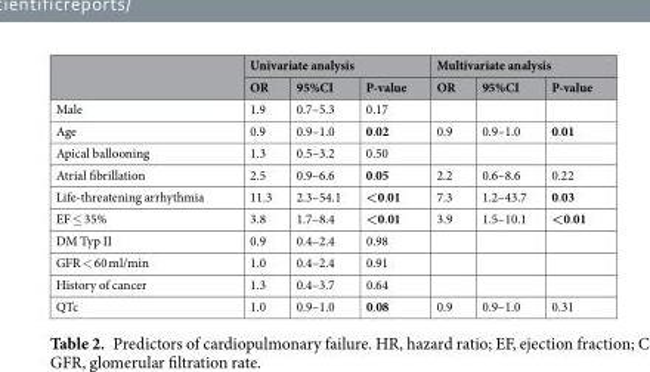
<table><thead><tr><td rowspan="2"></td><td colspan="3">Univariate analysis</td><td colspan="3">Multivariate analysis</td></tr><tr><td>OR</td><td>95%CI</td><td>P-value</td><td>OR</td><td>95%CI</td><td>P-value</td></tr></thead><tbody><tr><td>Male</td><td>1.9</td><td>0.7–5.3</td><td>0.17</td><td></td><td></td><td></td></tr><tr><td>Age</td><td>0.9</td><td>0.9–1.0</td><td>0.02</td><td>0.9</td><td>0.9–1.0</td><td>0.01</td></tr><tr><td>Apical ballooning</td><td>1.3</td><td>0.5–3.2</td><td>0.50</td><td></td><td></td><td></td></tr><tr><td>Atrial fibrillation</td><td>2.5</td><td>0.9–6.6</td><td>0.05</td><td>2.2</td><td>0.6–8.6</td><td>0.22</td></tr><tr><td>Life-threatening arrhythmia</td><td>11.3</td><td>2.3–54.1</td><td>&lt;0.01</td><td>7.3</td><td>1.2–43.7</td><td>0.03</td></tr><tr><td>EF ≤ 35%</td><td>3.8</td><td>1.7–8.4</td><td>&lt;0.01</td><td>3.9</td><td>1.5–10.1</td><td>&lt;0.01</td></tr><tr><td>DM Typ II</td><td>0.9</td><td>0.4–2.4</td><td>0.98</td><td></td><td></td><td></td></tr><tr><td>GFR &lt; 60 ml/min</td><td>1.0</td><td>0.4–2.4</td><td>0.91</td><td></td><td></td><td></td></tr><tr><td>History of cancer</td><td>1.3</td><td>0.4–3.7</td><td>0.64</td><td></td><td></td><td></td></tr><tr><td>QTc</td><td>1.0</td><td>0.9–1.0</td><td>0.08</td><td>0.9</td><td>0.9–1.0</td><td>0.31</td></tr></tbody></table>